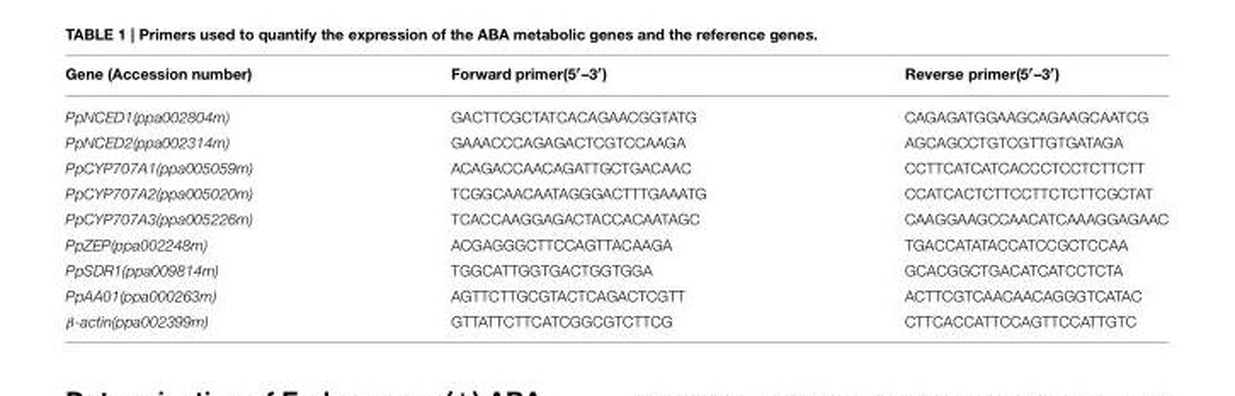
<table><thead><tr><td>Gene (Accession number)</td><td>Forward primer(5′–3′)</td><td>Reverse primer(5′–3′)</td></tr></thead><tbody><tr><td>PpNCED1(ppa002804m)</td><td>GACTTCGCTATCACAGAACGGTATG</td><td>CAGAGATGGAAGCAGAAGCAATCG</td></tr><tr><td>PpNCED2(ppa002314m)</td><td>GAAACCCAGAGACTCGTCCAAGA</td><td>AGCAGCCTGTCGTTGTGATAGA</td></tr><tr><td>PpCYP707A1(ppa005059m)</td><td>ACAGACCAACAGATTGCTGACAAC</td><td>CCTTCATCATCACCCTCCTCTTCTT</td></tr><tr><td>PpCYP707A2(ppa005020m)</td><td>TCGGCAACAATAGGGACTTTGAAATG</td><td>CCATCACTCTTCCTTCTCTTCGCTAT</td></tr><tr><td>PpCYP707A3(ppa005226m)</td><td>TCACCAAGGAGACTACCACAATAGC</td><td>CAAGGAAGCCAACATCAAAGGAGAAC</td></tr><tr><td>PpZEP(ppa002248m)</td><td>ACGAGGGCTTCCAGTTACAAGA</td><td>TGACCATATACCATCCGCTCCAA</td></tr><tr><td>PpSDR1(ppa009814m)</td><td>TGGCATTGGTGACTGGTGGA</td><td>GCACGGCTGACATCATCCTCTA</td></tr><tr><td>PpAA01(ppa000263m)</td><td>AGTTCTTGCGTACTCAGACTCGTT</td><td>ACTTCGTCAACAACAGGGTCATAC</td></tr><tr><td>β-actin(ppa002399m)</td><td>GTTATTCTTCATCGGCGTCTTCG</td><td>CTTCACCATTCCAGTTCCATTGTC</td></tr></tbody></table>